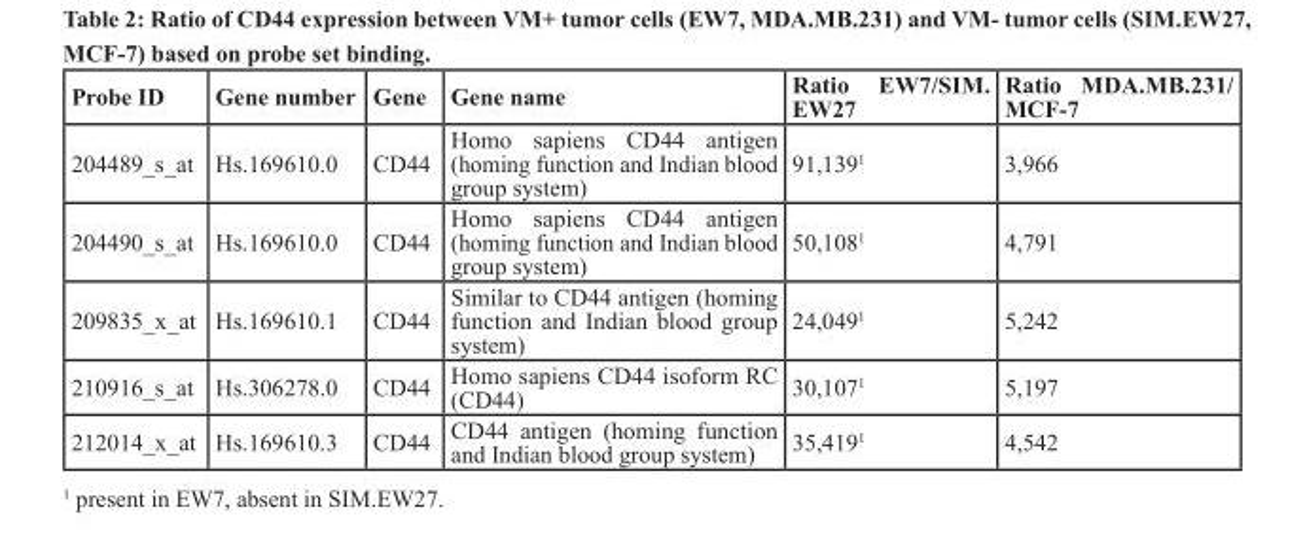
<table><thead><tr><td>Probe ID</td><td>Gene number</td><td>Gene</td><td>Gene name</td><td>Ratio EW7/SIM. EW27</td><td>Ratio MDA.MB.231/ MCF-7</td></tr></thead><tbody><tr><td>204489_s_at</td><td>Hs.169610.0</td><td>CD44</td><td>Homo sapiens CD44 antigen (homing function and Indian blood group system)</td><td>91,139<sup>1</sup></td><td>3,966</td></tr><tr><td>204490_s_at</td><td>Hs.169610.0</td><td>CD44</td><td>Homo sapiens CD44 antigen (homing function and Indian blood group system)</td><td>50,108<sup>1</sup></td><td>4,791</td></tr><tr><td>209835_x_at</td><td>Hs.169610.1</td><td>CD44</td><td>Similar to CD44 antigen (homing function and Indian blood group system)</td><td>24,049<sup>1</sup></td><td>5,242</td></tr><tr><td>210916_s_at</td><td>Hs.306278.0</td><td>CD44</td><td>Homo sapiens CD44 isoform RC (CD44)</td><td>30,107<sup>1</sup></td><td>5,197</td></tr><tr><td>212014_x_at</td><td>Hs.169610.3</td><td>CD44</td><td>CD44 antigen (homing function and Indian blood group system)</td><td>35,419<sup>1</sup></td><td>4,542</td></tr></tbody></table>